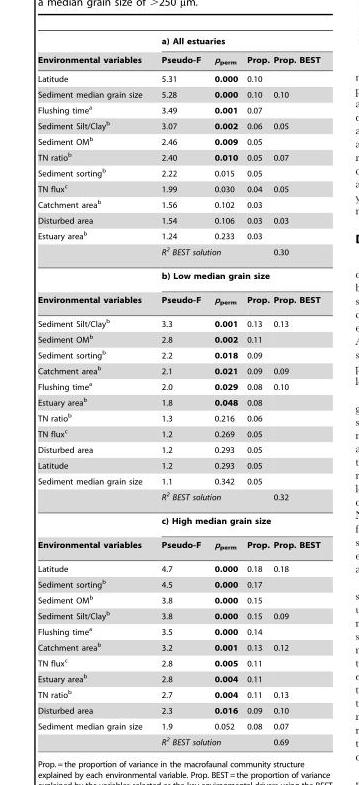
<table><thead><tr><td rowspan="2">Environmental variables</td><td colspan="4">a) All estuaries</td></tr><tr><td>Pseudo-F</td><td>p<sub>perm</sub></td><td>Prop.</td><td>Prop. BEST</td></tr></thead><tbody><tr><td>Latitude</td><td>5.31</td><td>0.000</td><td>0.10</td><td></td></tr><tr><td>Sediment median grain size</td><td>5.28</td><td>0.000</td><td>0.10</td><td>0.10</td></tr><tr><td>Flushing time<sup>a</sup></td><td>3.49</td><td>0.001</td><td>0.07</td><td></td></tr><tr><td>Sediment Silt/Clay<sup>b</sup></td><td>3.07</td><td>0.002</td><td>0.06</td><td>0.05</td></tr><tr><td>Sediment OM<sup>b</sup></td><td>2.46</td><td>0.009</td><td>0.05</td><td></td></tr><tr><td>TN ratio<sup>b</sup></td><td>2.40</td><td>0.010</td><td>0.05</td><td>0.07</td></tr><tr><td>Sediment sorting<sup>b</sup></td><td>2.22</td><td>0.015</td><td>0.05</td><td></td></tr><tr><td>TN flux<sup>c</sup></td><td>1.99</td><td>0.030</td><td>0.04</td><td>0.05</td></tr><tr><td>Catchment area<sup>b</sup></td><td>1.56</td><td>0.102</td><td>0.03</td><td></td></tr><tr><td>Disturbed area</td><td>1.54</td><td>0.106</td><td>0.03</td><td>0.03</td></tr><tr><td rowspan="3">Estuary area<sup>b</sup></td><td>1.24</td><td>0.233</td><td>0.03</td><td></td></tr><tr><td colspan="3">R<sup>2</sup> BEST solution</td><td>0.30</td></tr><tr><td colspan="4">b) Low median grain size</td></tr><tr><td>Environmental variables</td><td>Pseudo-F</td><td>p<sub>perm</sub></td><td>Prop.</td><td>Prop. BEST</td></tr><tr><td>Sediment Silt/Clay<sup>b</sup></td><td>3.3</td><td>0.001</td><td>0.13</td><td>0.13</td></tr><tr><td>Sediment OM<sup>b</sup></td><td>2.8</td><td>0.002</td><td>0.11</td><td></td></tr><tr><td>Sediment sorting<sup>b</sup></td><td>2.2</td><td>0.018</td><td>0.09</td><td></td></tr><tr><td>Catchment area<sup>b</sup></td><td>2.1</td><td>0.021</td><td>0.09</td><td>0.09</td></tr><tr><td>Flushing time<sup>a</sup></td><td>2.0</td><td>0.029</td><td>0.08</td><td>0.10</td></tr><tr><td>Estuary area<sup>b</sup></td><td>1.8</td><td>0.048</td><td>0.08</td><td></td></tr><tr><td>TN ratio<sup>b</sup></td><td>1.3</td><td>0.216</td><td>0.06</td><td></td></tr><tr><td>TN flux<sup>c</sup></td><td>1.2</td><td>0.269</td><td>0.05</td><td></td></tr><tr><td>Disturbed area</td><td>1.2</td><td>0.293</td><td>0.05</td><td></td></tr><tr><td>Latitude</td><td>1.2</td><td>0.293</td><td>0.05</td><td></td></tr><tr><td rowspan="3">Sediment median grain size</td><td>1.1</td><td>0.342</td><td>0.05</td><td></td></tr><tr><td colspan="3">R<sup>2</sup> BEST solution</td><td>0.32</td></tr><tr><td colspan="4">c) High median grain size</td></tr><tr><td>Environmental variables</td><td>Pseudo-F</td><td>p<sub>perm</sub></td><td>Prop.</td><td>Prop. BEST</td></tr><tr><td>Latitude</td><td>4.7</td><td>0.000</td><td>0.18</td><td>0.18</td></tr><tr><td>Sediment sorting<sup>b</sup></td><td>4.5</td><td>0.000</td><td>0.17</td><td></td></tr><tr><td>Sediment OM<sup>b</sup></td><td>3.8</td><td>0.000</td><td>0.15</td><td></td></tr><tr><td>Sediment Silt/Clay<sup>b</sup></td><td>3.8</td><td>0.000</td><td>0.15</td><td>0.09</td></tr><tr><td>Flushing time<sup>a</sup></td><td>3.5</td><td>0.000</td><td>0.14</td><td></td></tr><tr><td>Catchment area<sup>b</sup></td><td>3.2</td><td>0.001</td><td>0.13</td><td>0.12</td></tr><tr><td>TN flux<sup>c</sup></td><td>2.8</td><td>0.005</td><td>0.11</td><td></td></tr><tr><td>Estuary area<sup>b</sup></td><td>2.8</td><td>0.004</td><td>0.11</td><td></td></tr><tr><td>TN ratio<sup>b</sup></td><td>2.7</td><td>0.004</td><td>0.11</td><td>0.13</td></tr><tr><td>Disturbed area</td><td>2.3</td><td>0.016</td><td>0.09</td><td>0.10</td></tr><tr><td rowspan="2">Sediment median grain size</td><td>1.9</td><td>0.052</td><td>0.08</td><td>0.07</td></tr><tr><td colspan="3">R<sup>2</sup> BEST solution</td><td>0.69</td></tr></tbody></table>